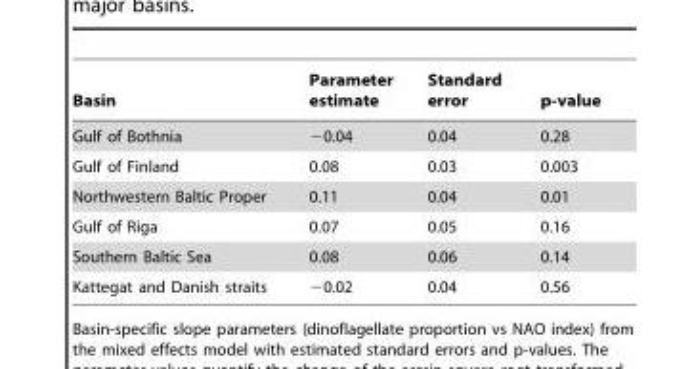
<table><thead><tr><td>Basin</td><td>Parameter estimate</td><td>Standard error</td><td>p-value</td></tr></thead><tbody><tr><td>Gulf of Bothnia</td><td>−0.04</td><td>0.04</td><td>0.28</td></tr><tr><td>Gulf of Finland</td><td>0.08</td><td>0.03</td><td>0.003</td></tr><tr><td>Northwestern Baltic Proper</td><td>0.11</td><td>0.04</td><td>0.01</td></tr><tr><td>Gulf of Riga</td><td>0.07</td><td>0.05</td><td>0.16</td></tr><tr><td>Southern Baltic Sea</td><td>0.08</td><td>0.06</td><td>0.14</td></tr><tr><td>Kattegat and Danish straits</td><td>−0.02</td><td>0.04</td><td>0.56</td></tr></tbody></table>